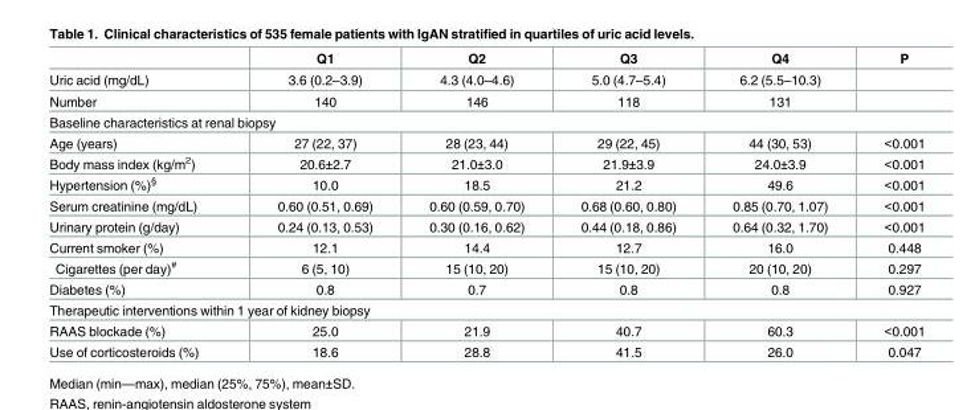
<table><thead><tr><td></td><td>Q1</td><td>Q2</td><td>Q3</td><td>Q4</td><td>P</td></tr></thead><tbody><tr><td>Uric acid (mg/dL)</td><td>3.6 (0.2–3.9)</td><td>4.3 (4.0–4.6)</td><td>5.0 (4.7–5.4)</td><td>6.2 (5.5–10.3)</td><td></td></tr><tr><td>Number</td><td>140</td><td>146</td><td>118</td><td>131</td><td></td></tr><tr><td colspan="6">Baseline characteristics at renal biopsy</td></tr><tr><td>Age (years)</td><td>27 (22, 37)</td><td>28 (23, 44)</td><td>29 (22, 45)</td><td>44 (30, 53)</td><td>&lt;0.001</td></tr><tr><td>Body mass index (kg/m<sup>2</sup>)</td><td>20.6±2.7</td><td>21.0±3.0</td><td>21.9±3.9</td><td>24.0±3.9</td><td>&lt;0.001</td></tr><tr><td>Hypertension (%)<sup>§</sup></td><td>10.0</td><td>18.5</td><td>21.2</td><td>49.6</td><td>&lt;0.001</td></tr><tr><td>Serum creatinine (mg/dL)</td><td>0.60 (0.51, 0.69)</td><td>0.60 (0.59, 0.70)</td><td>0.68 (0.60, 0.80)</td><td>0.85 (0.70, 1.07)</td><td>&lt;0.001</td></tr><tr><td>Urinary protein (g/day)</td><td>0.24 (0.13, 0.53)</td><td>0.30 (0.16, 0.62)</td><td>0.44 (0.18, 0.86)</td><td>0.64 (0.32, 1.70)</td><td>&lt;0.001</td></tr><tr><td>Current smoker (%)</td><td>12.1</td><td>14.4</td><td>12.7</td><td>16.0</td><td>0.448</td></tr><tr><td>Cigarettes (per day)<sup>#</sup></td><td>6 (5, 10)</td><td>15 (10, 20)</td><td>15 (10, 20)</td><td>20 (10, 20)</td><td>0.297</td></tr><tr><td>Diabetes (%)</td><td>0.8</td><td>0.7</td><td>0.8</td><td>0.8</td><td>0.927</td></tr><tr><td colspan="6">Therapeutic interventions within 1 year of kidney biopsy</td></tr><tr><td>RAAS blockade (%)</td><td>25.0</td><td>21.9</td><td>40.7</td><td>60.3</td><td>&lt;0.001</td></tr><tr><td>Use of corticosteroids (%)</td><td>18.6</td><td>28.8</td><td>41.5</td><td>26.0</td><td>0.047</td></tr></tbody></table>